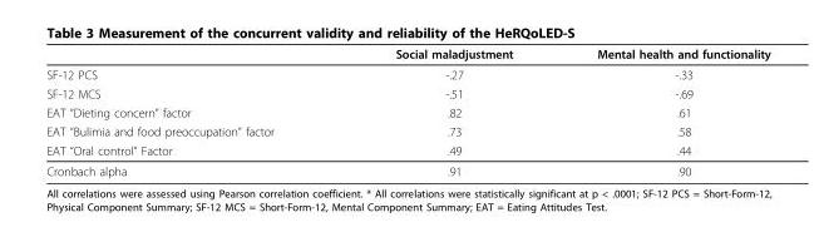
<table><thead><tr><td></td><td>Social maladjustment</td><td>Mental health and functionality</td></tr></thead><tbody><tr><td>SF-12 PCS</td><td>-.27</td><td>-.33</td></tr><tr><td>SF-12 MCS</td><td>-.51</td><td>-.69</td></tr><tr><td>EAT “Dieting concern” factor</td><td>.82</td><td>.61</td></tr><tr><td>EAT “Bulimia and food preoccupation” factor</td><td>.73</td><td>.58</td></tr><tr><td>EAT “Oral control” Factor</td><td>.49</td><td>.44</td></tr><tr><td>Cronbach alpha</td><td>.91</td><td>.90</td></tr></tbody></table>